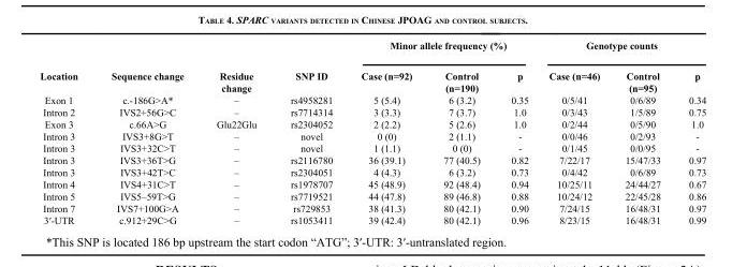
<table><thead><tr><td rowspan="2">Location</td><td rowspan="2">Sequence change</td><td rowspan="2">Residue change</td><td rowspan="2">SNP ID</td><td colspan="3">Minor allele frequency (%)</td><td colspan="3">Genotype counts</td></tr><tr><td>Case (n=92)</td><td>Control (n=190)</td><td>p</td><td>Case (n=46)</td><td>Control (n=95)</td><td>p</td></tr></thead><tbody><tr><td>Exon 1</td><td>c.-186G&gt;A*</td><td>–</td><td>rs4958281</td><td>5 (5.4)</td><td>6 (3.2)</td><td>0.35</td><td>0/5/41</td><td>0/6/89</td><td>0.34</td></tr><tr><td>Intron 2</td><td>IVS2+56G&gt;C</td><td>–</td><td>rs7714314</td><td>3 (3.3)</td><td>7 (3.7)</td><td>1.0</td><td>0/3/43</td><td>1/5/89</td><td>0.75</td></tr><tr><td>Exon 3</td><td>c.66A&gt;G</td><td>Glu22Glu</td><td>rs2304052</td><td>2 (2.2)</td><td>5 (2.6)</td><td>1.0</td><td>0/2/44</td><td>0/5/90</td><td>1.0</td></tr><tr><td>Intron 3</td><td>IVS3+8G&gt;T</td><td>–</td><td>novel</td><td>0 (0)</td><td>2 (1.1)</td><td>-</td><td>0/0/46</td><td>0/2/93</td><td>-</td></tr><tr><td>Intron 3</td><td>IVS3+32C&gt;T</td><td>–</td><td>novel</td><td>1 (1.1)</td><td>0 (0)</td><td>-</td><td>0/1/45</td><td>0/0/95</td><td>-</td></tr><tr><td>Intron 3</td><td>IVS3+36T&gt;G</td><td>–</td><td>rs2116780</td><td>36 (39.1)</td><td>77 (40.5)</td><td>0.82</td><td>7/22/17</td><td>15/47/33</td><td>0.97</td></tr><tr><td>Intron 3</td><td>IVS3+42T&gt;C</td><td>–</td><td>rs2304051</td><td>4 (4.3)</td><td>6 (3.2)</td><td>0.73</td><td>0/4/42</td><td>0/6/89</td><td>0.73</td></tr><tr><td>Intron 4</td><td>IVS4+31C&gt;T</td><td>–</td><td>rs1978707</td><td>45 (48.9)</td><td>92 (48.4)</td><td>0.94</td><td>10/25/11</td><td>24/44/27</td><td>0.67</td></tr><tr><td>Intron 5</td><td>IVS5–59T&gt;G</td><td>–</td><td>rs7719521</td><td>44 (47.8)</td><td>89 (46.8)</td><td>0.88</td><td>10/24/12</td><td>22/45/28</td><td>0.86</td></tr><tr><td>Intron 7</td><td>IVS7+100G&gt;A</td><td>–</td><td>rs729853</td><td>38 (41.3)</td><td>80 (42.1)</td><td>0.90</td><td>7/24/15</td><td>16/48/31</td><td>0.97</td></tr><tr><td>3′-UTR</td><td>c.912+29C&gt;G</td><td>–</td><td>rs1053411</td><td>39 (42.4)</td><td>80 (42.1)</td><td>0.96</td><td>8/23/15</td><td>16/48/31</td><td>0.99</td></tr></tbody></table>